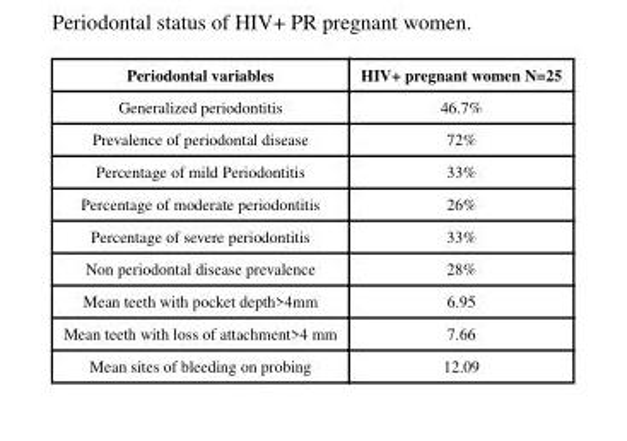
<table><thead><tr><td>Periodontal variables</td><td>HIV+ pregnant women N=25</td></tr></thead><tbody><tr><td>Generalized periodontitis</td><td>46.7%</td></tr><tr><td>Prevalence of periodontal disease</td><td>72%</td></tr><tr><td>Percentage of mild Periodontitis</td><td>33%</td></tr><tr><td>Percentage of moderate periodontitis</td><td>26%</td></tr><tr><td>Percentage of severe periodontitis</td><td>33%</td></tr><tr><td>Non periodontal disease prevalence</td><td>28%</td></tr><tr><td>Mean teeth with pocket depth&gt;4mm</td><td>6.95</td></tr><tr><td>Mean teeth with loss of attachment&gt;4 mm</td><td>7.66</td></tr><tr><td>Mean sites of bleeding on probing</td><td>12.09</td></tr></tbody></table>